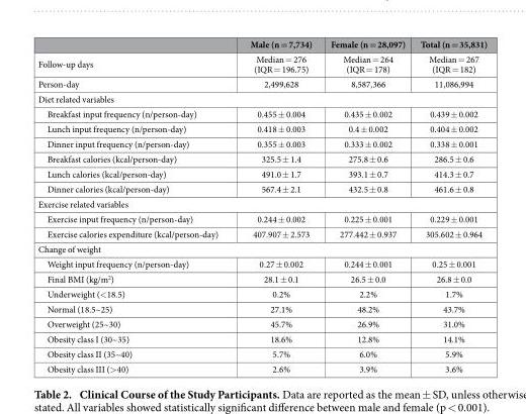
<table><thead><tr><td></td><td>Male (n = 7,734)</td><td>Female (n = 28,097)</td><td>Total (n = 35,831)</td></tr></thead><tbody><tr><td>Follow-up days</td><td>Median = 276 (IQR = 196.75)</td><td>Median = 264 (IQR = 178)</td><td>Median = 267 (IQR = 182)</td></tr><tr><td>Person-day</td><td>2,499,628</td><td>8,587,366</td><td>11,086,994</td></tr><tr><td colspan="4">Diet related variables</td></tr><tr><td>Breakfast input frequency (n/person-day)</td><td>0.455 ± 0.004</td><td>0.435 ± 0.002</td><td>0.439 ± 0.002</td></tr><tr><td>Lunch input frequency (n/person-day)</td><td>0.418 ± 0.003</td><td>0.4 ± 0.002</td><td>0.404 ± 0.002</td></tr><tr><td>Dinner input frequency (n/person-day)</td><td>0.355 ± 0.003</td><td>0.333 ± 0.002</td><td>0.338 ± 0.001</td></tr><tr><td>Breakfast calories (kcal/person-day)</td><td>325.5 ± 1.4</td><td>275.8 ± 0.6</td><td>286.5 ± 0.6</td></tr><tr><td>Lunch calories (kcal/person-day)</td><td>491.0 ± 1.7</td><td>393.1 ± 0.7</td><td>414.3 ± 0.7</td></tr><tr><td>Dinner calories (kcal/person-day)</td><td>567.4 ± 2.1</td><td>432.5 ± 0.8</td><td>461.6 ± 0.8</td></tr><tr><td colspan="4">Exercise related variables</td></tr><tr><td>Exercise input frequency (n/person-day)</td><td>0.244 ± 0.002</td><td>0.225 ± 0.001</td><td>0.229 ± 0.001</td></tr><tr><td>Exercise calories expenditure (kcal/person-day)</td><td>407.907 ± 2.573</td><td>277.442 ± 0.937</td><td>305.602 ± 0.964</td></tr><tr><td colspan="4">Change of weight</td></tr><tr><td>Weight input frequency (n/person-day)</td><td>0.27 ± 0.002</td><td>0.244 ± 0.001</td><td>0.25 ± 0.001</td></tr><tr><td>Final BMI (kg/m<sup>2</sup>)</td><td>28.1 ± 0.1</td><td>26.5 ± 0.0</td><td>26.8 ± 0.0</td></tr><tr><td>Underweight (&lt; 18.5)</td><td>0.2%</td><td>2.2%</td><td>1.7%</td></tr><tr><td>Normal (18.5~25)</td><td>27.1%</td><td>48.2%</td><td>43.7%</td></tr><tr><td>Overweight (25~30)</td><td>45.7%</td><td>26.9%</td><td>31.0%</td></tr><tr><td>Obesity class I (30~35)</td><td>18.6%</td><td>12.8%</td><td>14.1%</td></tr><tr><td>Obesity class II (35~40)</td><td>5.7%</td><td>6.0%</td><td>5.9%</td></tr><tr><td>Obesity class III (&gt; 40)</td><td>2.6%</td><td>3.9%</td><td>3.6%</td></tr></tbody></table>